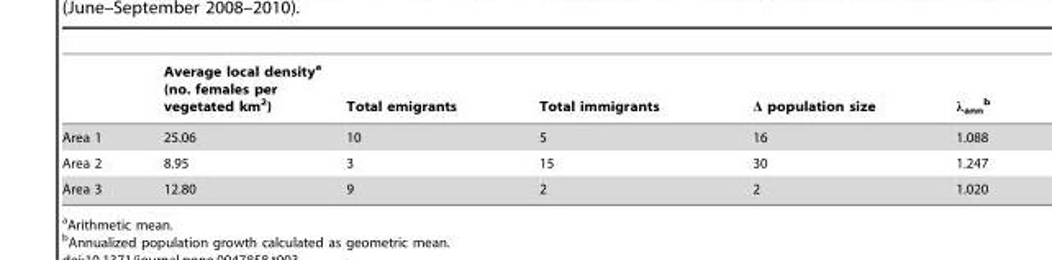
<table><thead><tr><td></td><td>Average local density<sup>a</sup> (no. females per vegetated km<sup>2</sup>)</td><td>Total emigrants</td><td>Total immigrants</td><td>Δ population size</td><td>λ<sub>ann</sub> b</td></tr></thead><tbody><tr><td>Area 1</td><td>25.06</td><td>10</td><td>5</td><td>16</td><td>1.088</td></tr><tr><td>Area 2</td><td>8.95</td><td>3</td><td>15</td><td>30</td><td>1.247</td></tr><tr><td>Area 3</td><td>12.80</td><td>9</td><td>2</td><td>2</td><td>1.020</td></tr></tbody></table>